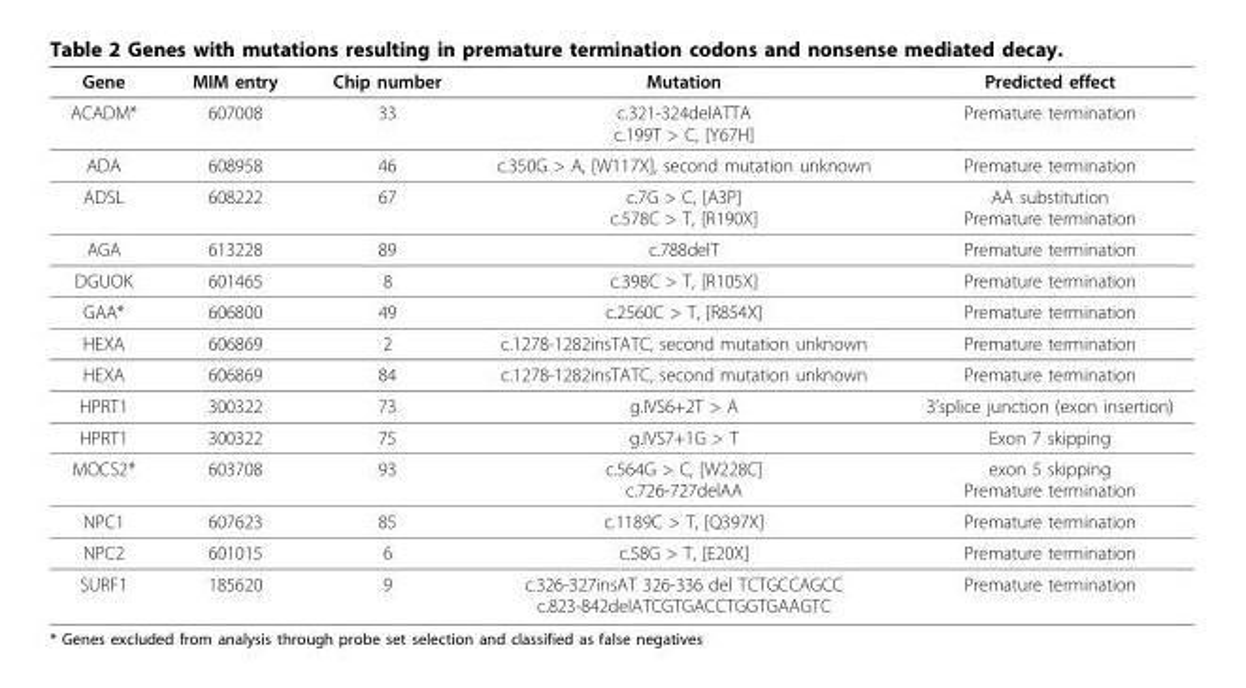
<table><thead><tr><td>Gene</td><td>MIM entry</td><td>Chip number</td><td>Mutation</td><td>Predicted effect</td></tr></thead><tbody><tr><td>ACADM*</td><td>607008</td><td>33</td><td>c.321-324delATTA c.199T &gt; C, [Y67H]</td><td>Premature termination</td></tr><tr><td>ADA</td><td>608958</td><td>46</td><td>c.350G &gt; A, [W117X], second mutation unknown</td><td>Premature termination</td></tr><tr><td>ADSL</td><td>608222</td><td>67</td><td>c.7G &gt; C, [A3P] c.578C &gt; T, [R190X]</td><td>AA substitution Premature termination</td></tr><tr><td>AGA</td><td>613228</td><td>89</td><td>c.788delT</td><td>Premature termination</td></tr><tr><td>DGUOK</td><td>601465</td><td>8</td><td>c.398C &gt; T, [R105X]</td><td>Premature termination</td></tr><tr><td>GAA*</td><td>606800</td><td>49</td><td>c.2560C &gt; T, [R854X]</td><td>Premature termination</td></tr><tr><td>HEXA</td><td>606869</td><td>2</td><td>c.1278-1282insTATC, second mutation unknown</td><td>Premature termination</td></tr><tr><td>HEXA</td><td>606869</td><td>84</td><td>c.1278-1282insTATC, second mutation unknown</td><td>Premature termination</td></tr><tr><td>HPRT1</td><td>300322</td><td>73</td><td>g.IVS6+2T &gt; A</td><td>3’splice junction (exon insertion)</td></tr><tr><td>HPRT1</td><td>300322</td><td>75</td><td>g.IVS7+1G &gt; T</td><td>Exon 7 skipping</td></tr><tr><td>MOCS2*</td><td>603708</td><td>93</td><td>c.564G &gt; C, [W228C] c.726-727delAA</td><td>exon 5 skipping Premature termination</td></tr><tr><td>NPC1</td><td>607623</td><td>85</td><td>c.1189C &gt; T, [Q397X]</td><td>Premature termination</td></tr><tr><td>NPC2</td><td>601015</td><td>6</td><td>c.58G &gt; T, [E20X]</td><td>Premature termination</td></tr><tr><td>SURF1</td><td>185620</td><td>9</td><td>c.326-327insAT 326-336 del TCTGCCAGCC c.823-842delATCGTGACCTGGTGAAGTC</td><td>Premature termination</td></tr></tbody></table>